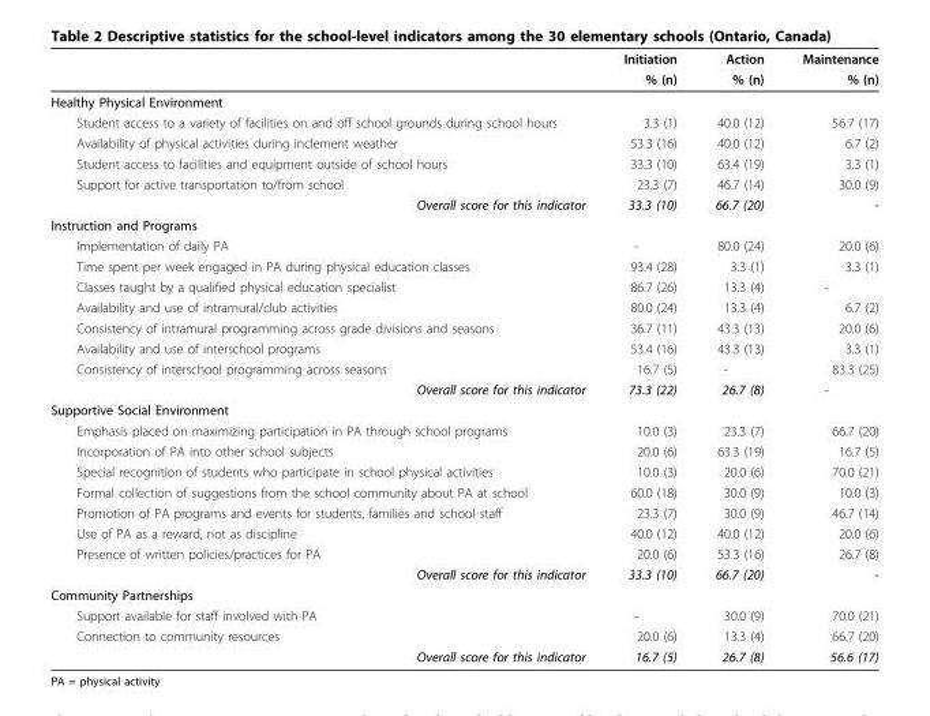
<table><thead><tr><td rowspan="2"></td><td rowspan="2">Initiation % (n)</td><td rowspan="2">Action % (n)</td><td rowspan="2">Maintenance % (n)</td></tr><tr></tr></thead><tbody><tr><td colspan="4">Healthy Physical Environment</td></tr><tr><td>Student access to a variety of facilities on and off school grounds during school hours</td><td>3.3 (1)</td><td>40.0 (12)</td><td>56.7 (17)</td></tr><tr><td>Availability of physical activities during inclement weather</td><td>53.3 (16)</td><td>40.0 (12)</td><td>6.7 (2)</td></tr><tr><td>Student access to facilities and equipment outside of school hours</td><td>33.3 (10)</td><td>63.4 (19)</td><td>3.3 (1)</td></tr><tr><td>Support for active transportation to/from school</td><td>23.3 (7)</td><td>46.7 (14)</td><td>30.0 (9)</td></tr><tr><td>Overall score for this indicator</td><td>33.3 (10)</td><td>66.7 (20)</td><td>-</td></tr><tr><td colspan="4">Instruction and Programs</td></tr><tr><td>Implementation of daily PA</td><td>-</td><td>80.0 (24)</td><td>20.0 (6)</td></tr><tr><td>Time spent per week engaged in PA during physical education classes</td><td>93.4 (28)</td><td>3.3 (1)</td><td>3.3 (1)</td></tr><tr><td>Classes taught by a qualified physical education specialist</td><td>86.7 (26)</td><td>13.3 (4)</td><td>-</td></tr><tr><td>Availability and use of intramural/club activities</td><td>80.0 (24)</td><td>13.3 (4)</td><td>6.7 (2)</td></tr><tr><td>Consistency of intramural programming across grade divisions and seasons</td><td>36.7 (11)</td><td>43.3 (13)</td><td>20.0 (6)</td></tr><tr><td>Availability and use of interschool programs</td><td>53.4 (16)</td><td>43.3 (13)</td><td>3.3 (1)</td></tr><tr><td>Consistency of interschool programming across seasons</td><td>16.7 (5)</td><td>-</td><td>83.3 (25)</td></tr><tr><td>Overall score for this indicator</td><td>73.3 (22)</td><td>26.7 (8)</td><td>-</td></tr><tr><td colspan="4">Supportive Social Environment</td></tr><tr><td>Emphasis placed on maximizing participation in PA through school programs</td><td>10.0 (3)</td><td>23.3 (7)</td><td>66.7 (20)</td></tr><tr><td>Incorporation of PA into other school subjects</td><td>20.0 (6)</td><td>63.3 (19)</td><td>16.7 (5)</td></tr><tr><td>Special recognition of students who participate in school physical activities</td><td>10.0 (3)</td><td>20.0 (6)</td><td>70.0 (21)</td></tr><tr><td>Formal collection of suggestions from the school community about PA at school</td><td>60.0 (18)</td><td>30.0 (9)</td><td>10.0 (3)</td></tr><tr><td>Promotion of PA programs and events for students, families and school staff</td><td>23.3 (7)</td><td>30.0 (9)</td><td>46.7 (14)</td></tr><tr><td>Use of PA as a reward, not as discipline</td><td>40.0 (12)</td><td>40.0 (12)</td><td>20.0 (6)</td></tr><tr><td>Presence of written policies/practices for PA</td><td>20.0 (6)</td><td>53.3 (16)</td><td>26.7 (8)</td></tr><tr><td>Overall score for this indicator</td><td>33.3 (10)</td><td>66.7 (20)</td><td>-</td></tr><tr><td colspan="4">Community Partnerships</td></tr><tr><td>Support available for staff involved with PA</td><td>-</td><td>30.0 (9)</td><td>70.0 (21)</td></tr><tr><td>Connection to community resources</td><td>20.0 (6)</td><td>13.3 (4)</td><td>66.7 (20)</td></tr><tr><td>Overall score for this indicator</td><td>16.7 (5)</td><td>26.7 (8)</td><td>56.6 (17)</td></tr></tbody></table>